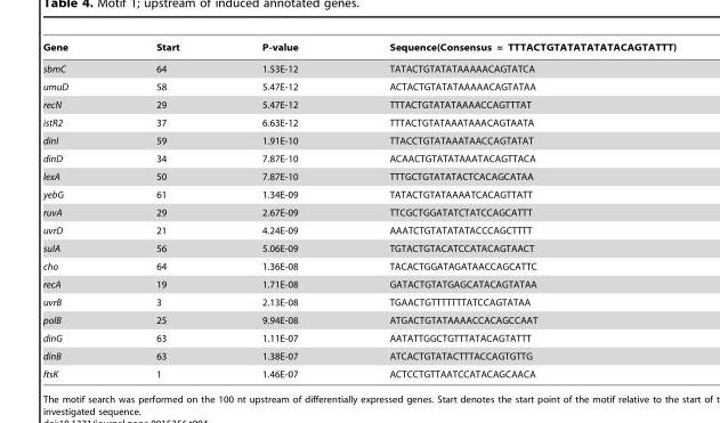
<table><thead><tr><td>Gene</td><td>Start</td><td>P-value</td><td>Sequence(Consensus = TTTACTGTATATATATACAGTATTT)</td></tr></thead><tbody><tr><td>sbmC</td><td>64</td><td>1.53E-12</td><td>TATACTGTATATAAAAACAGTATCA</td></tr><tr><td>umuD</td><td>58</td><td>5.47E-12</td><td>ACTACTGTATATAAAAACAGTATAA</td></tr><tr><td>recN</td><td>29</td><td>5.47E-12</td><td>TTTACTGTATATAAAACCAGTTTAT</td></tr><tr><td>istR2</td><td>37</td><td>6.63E-12</td><td>TTTACTGTATAAATAAACAGTAATA</td></tr><tr><td>dinI</td><td>59</td><td>1.91E-10</td><td>TTACCTGTATAAATAACCAGTATAT</td></tr><tr><td>dinD</td><td>34</td><td>7.87E-10</td><td>ACAACTGTATATAAATACAGTTACA</td></tr><tr><td>lexA</td><td>50</td><td>7.87E-10</td><td>TTTGCTGTATATACTCACAGCATAA</td></tr><tr><td>yebG</td><td>61</td><td>1.34E-09</td><td>TATACTGTATAAAATCACAGTTATT</td></tr><tr><td>ruvA</td><td>29</td><td>2.67E-09</td><td>TTCGCTGGATATCTATCCAGCATTT</td></tr><tr><td>uvrD</td><td>21</td><td>4.24E-09</td><td>AAATCTGTATATATACCCAGCTTTT</td></tr><tr><td>sulA</td><td>56</td><td>5.06E-09</td><td>TGTACTGTACATCCATACAGTAACT</td></tr><tr><td>cho</td><td>64</td><td>1.36E-08</td><td>TACACTGGATAGATAACCAGCATTC</td></tr><tr><td>recA</td><td>19</td><td>1.71E-08</td><td>GATACTGTATGAGCATACAGTATAA</td></tr><tr><td>uvrB</td><td>3</td><td>2.13E-08</td><td>TGAACTGTTTTTTTATCCAGTATAA</td></tr><tr><td>polB</td><td>25</td><td>9.94E-08</td><td>ATGACTGTATAAAACCACAGCCAAT</td></tr><tr><td>dinG</td><td>63</td><td>1.11E-07</td><td>AATATTGGCTGTTTATACAGTATTT</td></tr><tr><td>dinB</td><td>63</td><td>1.38E-07</td><td>ATCACTGTATACTTTACCAGTGTTG</td></tr><tr><td>ftsK</td><td>1</td><td>1.46E-07</td><td>ACTCCTGTTAATCCATACAGCAACA</td></tr></tbody></table>